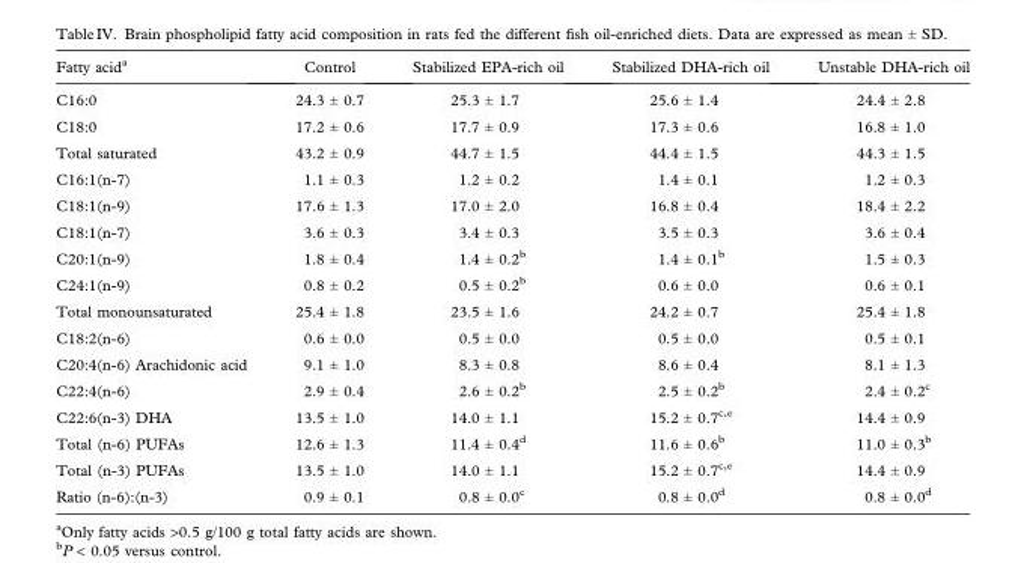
<table><thead><tr><td>Fatty acid<sup>a</sup></td><td>Control</td><td>Stabilized EPA-rich oil</td><td>Stabilized DHA-rich oil</td><td>Unstable DHA-rich oil</td></tr></thead><tbody><tr><td>C16:0</td><td>24.3 ± 0.7</td><td>25.3 ± 1.7</td><td>25.6 ± 1.4</td><td>24.4 ± 2.8</td></tr><tr><td>C18:0</td><td>17.2 ± 0.6</td><td>17.7 ± 0.9</td><td>17.3 ± 0.6</td><td>16.8 ± 1.0</td></tr><tr><td>Total saturated</td><td>43.2 ± 0.9</td><td>44.7 ± 1.5</td><td>44.4 ± 1.5</td><td>44.3 ± 1.5</td></tr><tr><td>C16:1(n-7)</td><td>1.1 ± 0.3</td><td>1.2 ± 0.2</td><td>1.4 ± 0.1</td><td>1.2 ± 0.3</td></tr><tr><td>C18:1(n-9)</td><td>17.6 ± 1.3</td><td>17.0 ± 2.0</td><td>16.8 ± 0.4</td><td>18.4 ± 2.2</td></tr><tr><td>C18:1(n-7)</td><td>3.6 ± 0.3</td><td>3.4 ± 0.3</td><td>3.5 ± 0.3</td><td>3.6 ± 0.4</td></tr><tr><td>C20:1(n-9)</td><td>1.8 ± 0.4</td><td>1.4 ± 0.2<sup>b</sup></td><td>1.4 ± 0.1<sup>b</sup></td><td>1.5 ± 0.3</td></tr><tr><td>C24:1(n-9)</td><td>0.8 ± 0.2</td><td>0.5 ± 0.2<sup>b</sup></td><td>0.6 ± 0.0</td><td>0.6 ± 0.1</td></tr><tr><td>Total monounsaturated</td><td>25.4 ± 1.8</td><td>23.5 ± 1.6</td><td>24.2 ± 0.7</td><td>25.4 ± 1.8</td></tr><tr><td>C18:2(n-6)</td><td>0.6 ± 0.0</td><td>0.5 ± 0.0</td><td>0.5 ± 0.0</td><td>0.5 ± 0.1</td></tr><tr><td>C20:4(n-6) Arachidonic acid</td><td>9.1 ± 1.0</td><td>8.3 ± 0.8</td><td>8.6 ± 0.4</td><td>8.1 ± 1.3</td></tr><tr><td>C22:4(n-6)</td><td>2.9 ± 0.4</td><td>2.6 ± 0.2<sup>b</sup></td><td>2.5 ± 0.2<sup>b</sup></td><td>2.4 ± 0.2<sup>c</sup></td></tr><tr><td>C22:6(n-3) DHA</td><td>13.5 ± 1.0</td><td>14.0 ± 1.1</td><td>15.2 ± 0.7<sup>c,e</sup></td><td>14.4 ± 0.9</td></tr><tr><td>Total (n-6) PUFAs</td><td>12.6 ± 1.3</td><td>11.4 ± 0.4<sup>d</sup></td><td>11.6 ± 0.6<sup>b</sup></td><td>11.0 ± 0.3<sup>b</sup></td></tr><tr><td>Total (n-3) PUFAs</td><td>13.5 ± 1.0</td><td>14.0 ± 1.1</td><td>15.2 ± 0.7<sup>c,e</sup></td><td>14.4 ± 0.9</td></tr><tr><td>Ratio (n-6):(n-3)</td><td>0.9 ± 0.1</td><td>0.8 ± 0.0<sup>c</sup></td><td>0.8 ± 0.0<sup>d</sup></td><td>0.8 ± 0.0<sup>d</sup></td></tr></tbody></table>